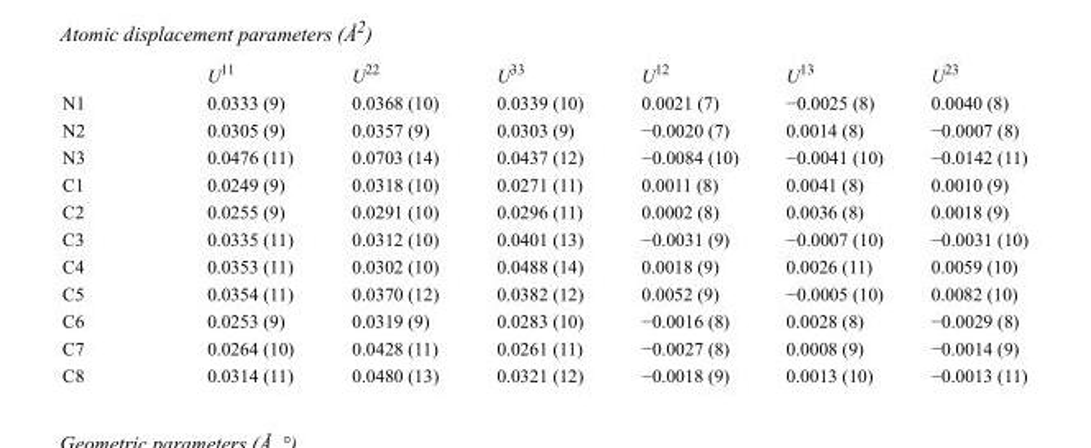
<table><thead><tr><td></td><td>U<sup>11</sup></td><td>U<sup>22</sup></td><td>U<sup>33</sup></td><td>U<sup>12</sup></td><td>U<sup>13</sup></td><td>U<sup>23</sup></td></tr></thead><tbody><tr><td>N1</td><td>0.0333 (9)</td><td>0.0368 (10)</td><td>0.0339 (10)</td><td>0.0021 (7)</td><td>−0.0025 (8)</td><td>0.0040 (8)</td></tr><tr><td>N2</td><td>0.0305 (9)</td><td>0.0357 (9)</td><td>0.0303 (9)</td><td>−0.0020 (7)</td><td>0.0014 (8)</td><td>−0.0007 (8)</td></tr><tr><td>N3</td><td>0.0476 (11)</td><td>0.0703 (14)</td><td>0.0437 (12)</td><td>−0.0084 (10)</td><td>−0.0041 (10)</td><td>−0.0142 (11)</td></tr><tr><td>C1</td><td>0.0249 (9)</td><td>0.0318 (10)</td><td>0.0271 (11)</td><td>0.0011 (8)</td><td>0.0041 (8)</td><td>0.0010 (9)</td></tr><tr><td>C2</td><td>0.0255 (9)</td><td>0.0291 (10)</td><td>0.0296 (11)</td><td>0.0002 (8)</td><td>0.0036 (8)</td><td>0.0018 (9)</td></tr><tr><td>C3</td><td>0.0335 (11)</td><td>0.0312 (10)</td><td>0.0401 (13)</td><td>−0.0031 (9)</td><td>−0.0007 (10)</td><td>−0.0031 (10)</td></tr><tr><td>C4</td><td>0.0353 (11)</td><td>0.0302 (10)</td><td>0.0488 (14)</td><td>0.0018 (9)</td><td>0.0026 (11)</td><td>0.0059 (10)</td></tr><tr><td>C5</td><td>0.0354 (11)</td><td>0.0370 (12)</td><td>0.0382 (12)</td><td>0.0052 (9)</td><td>−0.0005 (10)</td><td>0.0082 (10)</td></tr><tr><td>C6</td><td>0.0253 (9)</td><td>0.0319 (9)</td><td>0.0283 (10)</td><td>−0.0016 (8)</td><td>0.0028 (8)</td><td>−0.0029 (8)</td></tr><tr><td>C7</td><td>0.0264 (10)</td><td>0.0428 (11)</td><td>0.0261 (11)</td><td>−0.0027 (8)</td><td>0.0008 (9)</td><td>−0.0014 (9)</td></tr><tr><td>C8</td><td>0.0314 (11)</td><td>0.0480 (13)</td><td>0.0321 (12)</td><td>−0.0018 (9)</td><td>0.0013 (10)</td><td>−0.0013 (11)</td></tr></tbody></table>